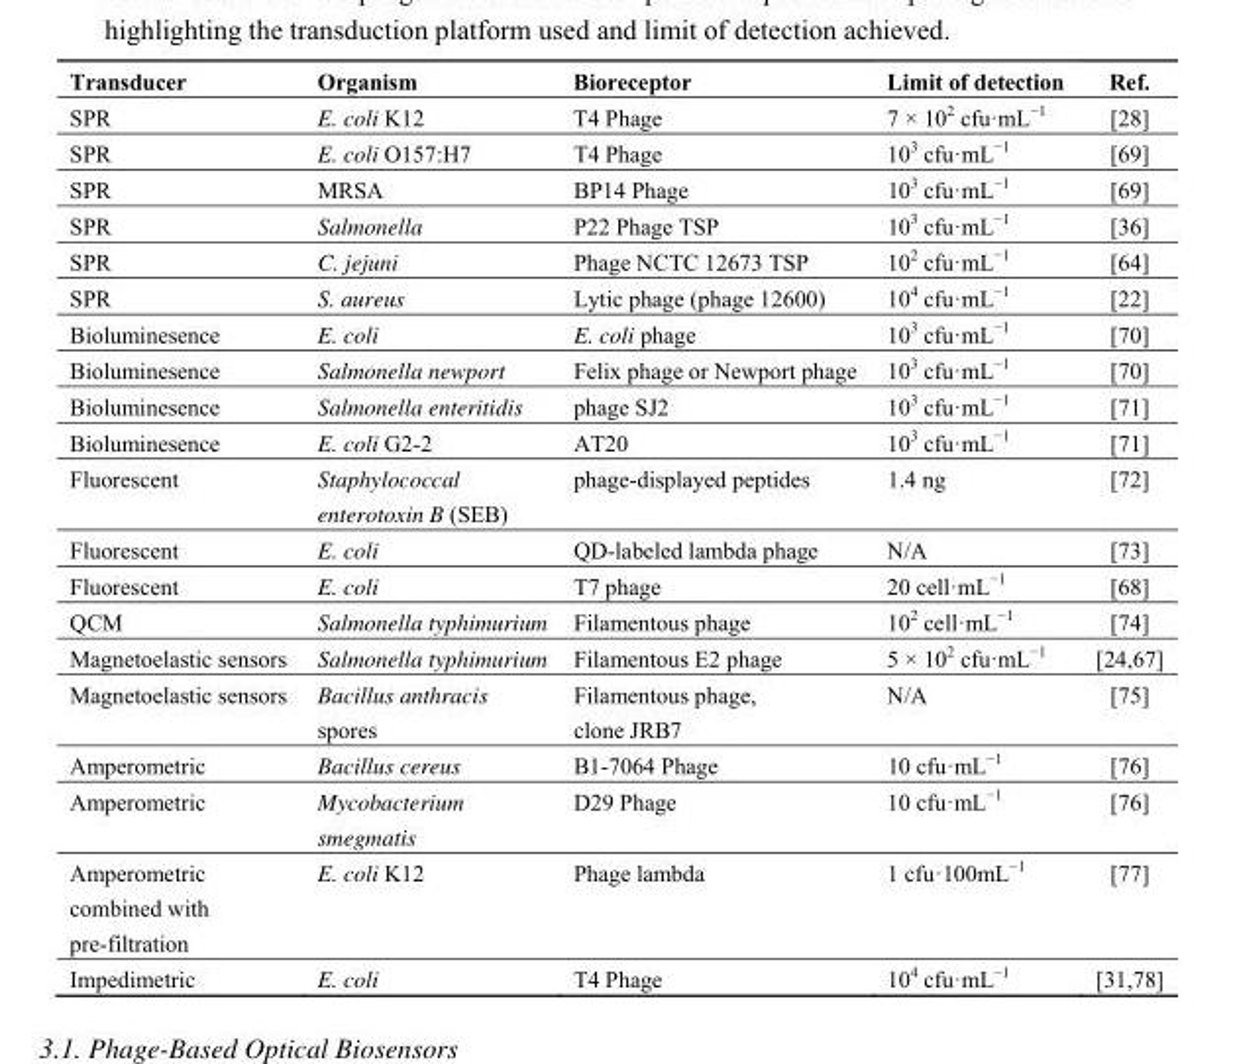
<table><thead><tr><td>Transducer</td><td>Organism</td><td>Bioreceptor</td><td>Limit of detection</td><td>Ref.</td></tr></thead><tbody><tr><td>SPR</td><td>E. coli K12</td><td>T4 Phage</td><td>7 × 10<sup>2</sup> cfu·mL<sup>−1</sup></td><td>[28]</td></tr><tr><td>SPR</td><td>E. coli O157:H7</td><td>T4 Phage</td><td>10<sup>3</sup> cfu·mL<sup>−1</sup></td><td>[69]</td></tr><tr><td>SPR</td><td>MRSA</td><td>BP14 Phage</td><td>10<sup>3</sup> cfu·mL<sup>−1</sup></td><td>[69]</td></tr><tr><td>SPR</td><td>Salmonella</td><td>P22 Phage TSP</td><td>10<sup>3</sup> cfu·mL<sup>−1</sup></td><td>[36]</td></tr><tr><td>SPR</td><td>C. jejuni</td><td>Phage NCTC 12673 TSP</td><td>10<sup>2</sup> cfu·mL<sup>−1</sup></td><td>[64]</td></tr><tr><td>SPR</td><td>S. aureus</td><td>Lytic phage (phage 12600)</td><td>10<sup>4</sup> cfu·mL<sup>−1</sup></td><td>[22]</td></tr><tr><td>Bioluminesence</td><td>E. coli</td><td>E. coli phage</td><td>10<sup>3</sup> cfu·mL<sup>−1</sup></td><td>[70]</td></tr><tr><td>Bioluminesence</td><td>Salmonella newport</td><td>Felix phage or Newport phage</td><td>10<sup>3</sup> cfu·mL<sup>−1</sup></td><td>[70]</td></tr><tr><td>Bioluminesence</td><td>Salmonella enteritidis</td><td>phage SJ2</td><td>10<sup>3</sup> cfu·mL<sup>−1</sup></td><td>[71]</td></tr><tr><td>Bioluminesence</td><td>E. coli G2-2</td><td>AT20</td><td>10<sup>3</sup> cfu·mL<sup>−1</sup></td><td>[71]</td></tr><tr><td>Fluorescent</td><td>Staphylococcal enterotoxin B (SEB)</td><td>phage-displayed peptides</td><td>1.4 ng</td><td>[72]</td></tr><tr><td>Fluorescent</td><td>E. coli</td><td>QD-labeled lambda phage</td><td>N/A</td><td>[73]</td></tr><tr><td>Fluorescent</td><td>E. coli</td><td>T7 phage</td><td>20 cell·mL<sup>−1</sup></td><td>[68]</td></tr><tr><td>QCM</td><td>Salmonella typhimurium</td><td>Filamentous phage</td><td>10<sup>2</sup> cell·mL<sup>−1</sup></td><td>[74]</td></tr><tr><td>Magnetoelastic sensors</td><td>Salmonella typhimurium</td><td>Filamentous E2 phage</td><td>5 × 10<sup>2</sup> cfu·mL<sup>−1</sup></td><td>[24,67]</td></tr><tr><td>Magnetoelastic sensors</td><td>Bacillus anthracis spores</td><td>Filamentous phage, clone JRB7</td><td>N/A</td><td>[75]</td></tr><tr><td>Amperometric</td><td>Bacillus cereus</td><td>B1-7064 Phage</td><td>10 cfu·mL<sup>−1</sup></td><td>[76]</td></tr><tr><td>Amperometric</td><td>Mycobacterium smegmatis</td><td>D29 Phage</td><td>10 cfu·mL<sup>−1</sup></td><td>[76]</td></tr><tr><td>Amperometric combined with pre-filtration</td><td>E. coli K12</td><td>Phage lambda</td><td>1 cfu·100mL<sup>−1</sup></td><td>[77]</td></tr><tr><td>Impedimetric</td><td>E. coli</td><td>T4 Phage</td><td>10<sup>4</sup> cfu·mL<sup>−1</sup></td><td>[31,78]</td></tr></tbody></table>